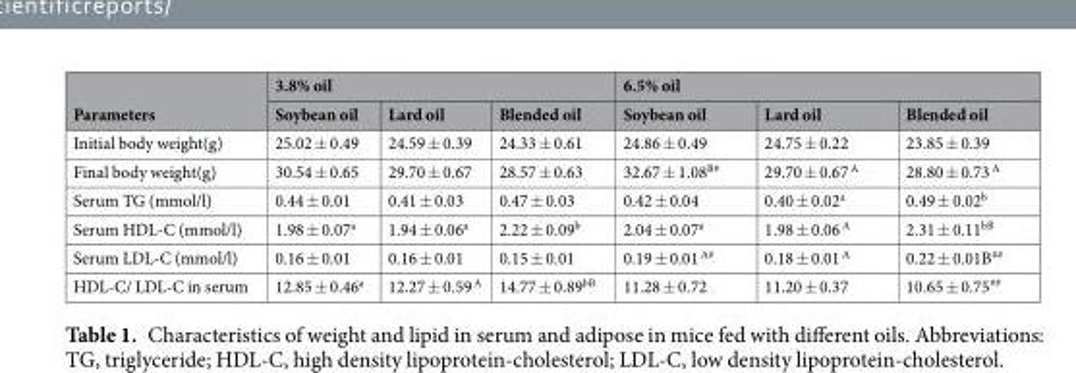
<table><thead><tr><td rowspan="2">Parameters</td><td colspan="3">3.8% oil</td><td colspan="3">6.5% oil</td></tr><tr><td>Soybean oil</td><td>Lard oil</td><td>Blended oil</td><td>Soybean oil</td><td>Lard oil</td><td>Blended oil</td></tr></thead><tbody><tr><td>Initial body weight(g)</td><td>25.02 ± 0.49</td><td>24.59 ± 0.39</td><td>24.33 ± 0.61</td><td>24.86 ± 0.49</td><td>24.75 ± 0.22</td><td>23.85 ± 0.39</td></tr><tr><td>Final body weight(g)</td><td>30.54 ± 0.65</td><td>29.70 ± 0.67</td><td>28.57 ± 0.63</td><td>32.67 ± 1.08<sup>B#</sup></td><td>29.70 ± 0.67 <sup>A</sup></td><td>28.80 ± 0.73 <sup>A</sup></td></tr><tr><td>Serum TG (mmol/l)</td><td>0.44 ± 0.01</td><td>0.41 ± 0.03</td><td>0.47 ± 0.03</td><td>0.42 ± 0.04</td><td>0.40 ± 0.02<sup>a</sup></td><td>0.49 ± 0.02<sup>b</sup></td></tr><tr><td>Serum HDL-C (mmol/l)</td><td>1.98 ± 0.07<sup>a</sup></td><td>1.94 ± 0.06<sup>a</sup></td><td>2.22 ± 0.09<sup>b</sup></td><td>2.04 ± 0.07<sup>a</sup></td><td>1.98 ± 0.06 <sup>A</sup></td><td>2.31 ± 0.11<sup>bB</sup></td></tr><tr><td>Serum LDL-C (mmol/l)</td><td>0.16 ± 0.01</td><td>0.16 ± 0.01</td><td>0.15 ± 0.01</td><td>0.19 ± 0.01 <sup>A#</sup></td><td>0.18 ± 0.01 <sup>A</sup></td><td>0.22 ± 0.01B<sup>##</sup></td></tr><tr><td>HDL-C/ LDL-C in serum</td><td>12.85 ± 0.46<sup>a</sup></td><td>12.27 ± 0.59 <sup>A</sup></td><td>14.77 ± 0.89<sup>bB</sup></td><td>11.28 ± 0.72</td><td>11.20 ± 0.37</td><td>10.65 ± 0.75<sup>##</sup></td></tr></tbody></table>